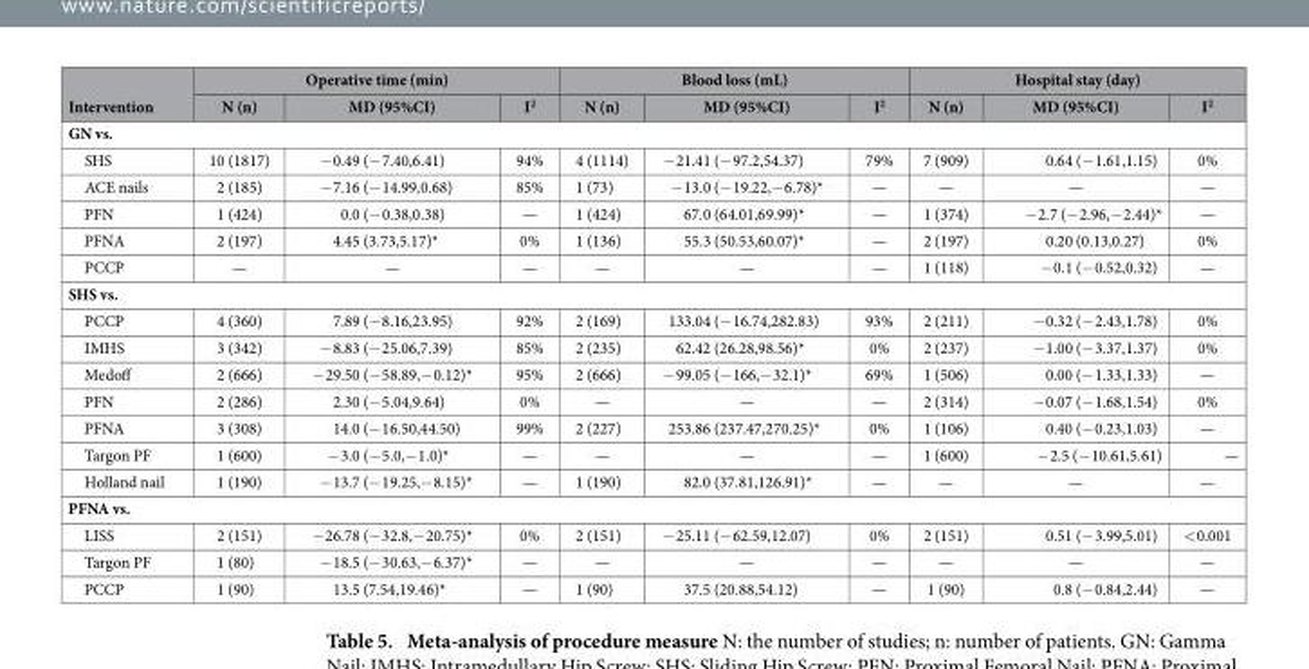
<table><thead><tr><td rowspan="2">Intervention</td><td colspan="3">Operative time (min)</td><td colspan="3">Blood loss (mL)</td><td colspan="3">Hospital stay (day)</td></tr><tr><td>N (n)</td><td>MD (95%CI)</td><td>I<sup>2</sup></td><td>N (n)</td><td>MD (95%CI)</td><td>I<sup>2</sup></td><td>N (n)</td><td>MD (95%CI)</td><td>I<sup>2</sup></td></tr></thead><tbody><tr><td colspan="10">GN vs.</td></tr><tr><td>SHS</td><td>10 (1817)</td><td>− 0.49 (− 7.40,6.41)</td><td>94%</td><td>4 (1114)</td><td>− 21.41 (− 97.2,54.37)</td><td>79%</td><td>7 (909)</td><td>0.64 (− 1.61,1.15)</td><td>0%</td></tr><tr><td>ACE nails</td><td>2 (185)</td><td>− 7.16 (− 14.99,0.68)</td><td>85%</td><td>1 (73)</td><td>− 13.0 (− 19.22,− 6.78)*</td><td>—</td><td>—</td><td>—</td><td>—</td></tr><tr><td>PFN</td><td>1 (424)</td><td>0.0 (− 0.38,0.38)</td><td>—</td><td>1 (424)</td><td>67.0 (64.01,69.99)*</td><td>—</td><td>1 (374)</td><td>− 2.7 (− 2.96,− 2.44)*</td><td>—</td></tr><tr><td>PFNA</td><td>2 (197)</td><td>4.45 (3.73,5.17)*</td><td>0%</td><td>1 (136)</td><td>55.3 (50.53,60.07)*</td><td>—</td><td>2 (197)</td><td>0.20 (0.13,0.27)</td><td>0%</td></tr><tr><td>PCCP</td><td>—</td><td>—</td><td>—</td><td>—</td><td>—</td><td>—</td><td>1 (118)</td><td>− 0.1 (− 0.52,0.32)</td><td>—</td></tr><tr><td colspan="10">SHS vs.</td></tr><tr><td>PCCP</td><td>4 (360)</td><td>7.89 (− 8.16,23.95)</td><td>92%</td><td>2 (169)</td><td>133.04 (− 16.74,282.83)</td><td>93%</td><td>2 (211)</td><td>− 0.32 (− 2.43,1.78)</td><td>0%</td></tr><tr><td>IMHS</td><td>3 (342)</td><td>− 8.83 (− 25.06,7.39)</td><td>85%</td><td>2 (235)</td><td>62.42 (26.28,98.56)*</td><td>0%</td><td>2 (237)</td><td>− 1.00 (− 3.37,1.37)</td><td>0%</td></tr><tr><td>Medoff</td><td>2 (666)</td><td>− 29.50 (− 58.89,− 0.12)*</td><td>95%</td><td>2 (666)</td><td>− 99.05 (− 166,− 32.1)*</td><td>69%</td><td>1 (506)</td><td>0.00 (− 1.33,1.33)</td><td>—</td></tr><tr><td>PFN</td><td>2 (286)</td><td>2.30 (− 5.04,9.64)</td><td>0%</td><td>—</td><td>—</td><td>—</td><td>2 (314)</td><td>− 0.07 (− 1.68,1.54)</td><td>0%</td></tr><tr><td>PFNA</td><td>3 (308)</td><td>14.0 (− 16.50,44.50)</td><td>99%</td><td>2 (227)</td><td>253.86 (237.47,270.25)*</td><td>0%</td><td>1 (106)</td><td>0.40 (− 0.23,1.03)</td><td>—</td></tr><tr><td>Targon PF</td><td>1 (600)</td><td>− 3.0 (− 5.0,− 1.0)*</td><td>—</td><td>—</td><td>—</td><td>—</td><td>1 (600)</td><td>− 2.5 (− 10.61,5.61)</td><td>—</td></tr><tr><td>Holland nail</td><td>1 (190)</td><td>− 13.7 (− 19.25,− 8.15)*</td><td>—</td><td>1 (190)</td><td>82.0 (37.81,126.91)*</td><td>—</td><td>—</td><td>—</td><td>—</td></tr><tr><td colspan="10">PFNA vs.</td></tr><tr><td>LISS</td><td>2 (151)</td><td>− 26.78 (− 32.8,− 20.75)*</td><td>0%</td><td>2 (151)</td><td>− 25.11 (− 62.59,12.07)</td><td>0%</td><td>2 (151)</td><td>0.51 (− 3.99,5.01)</td><td>&lt; 0.001</td></tr><tr><td>Targon PF</td><td>1 (80)</td><td>− 18.5 (− 30.63,− 6.37)*</td><td>—</td><td>—</td><td>—</td><td>—</td><td>—</td><td>—</td><td>—</td></tr><tr><td>PCCP</td><td>1 (90)</td><td>13.5 (7.54,19.46)*</td><td>—</td><td>1 (90)</td><td>37.5 (20.88,54.12)</td><td>—</td><td>1 (90)</td><td>0.8 (− 0.84,2.44)</td><td>—</td></tr></tbody></table>